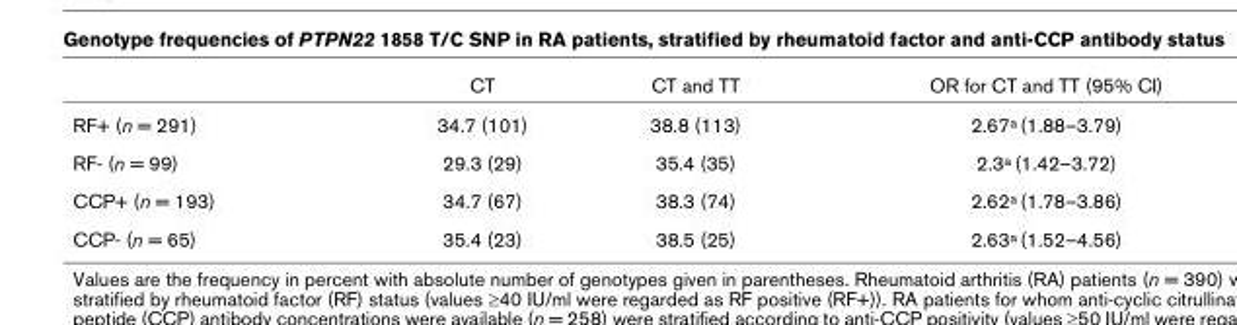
<table><thead><tr><td></td><td>CT</td><td>CT and TT</td><td>OR for CT and TT (95% CI)</td></tr></thead><tbody><tr><td>RF+ (n = 291)</td><td>34.7 (101)</td><td>38.8 (113)</td><td>2.67a (1.88–3.79)</td></tr><tr><td>RF- (n = 99)</td><td>29.3 (29)</td><td>35.4 (35)</td><td>2.3a (1.42–3.72)</td></tr><tr><td>CCP+ (n = 193)</td><td>34.7 (67)</td><td>38.3 (74)</td><td>2.62a (1.78–3.86)</td></tr><tr><td>CCP- (n = 65)</td><td>35.4 (23)</td><td>38.5 (25)</td><td>2.63a (1.52–4.56)</td></tr></tbody></table>